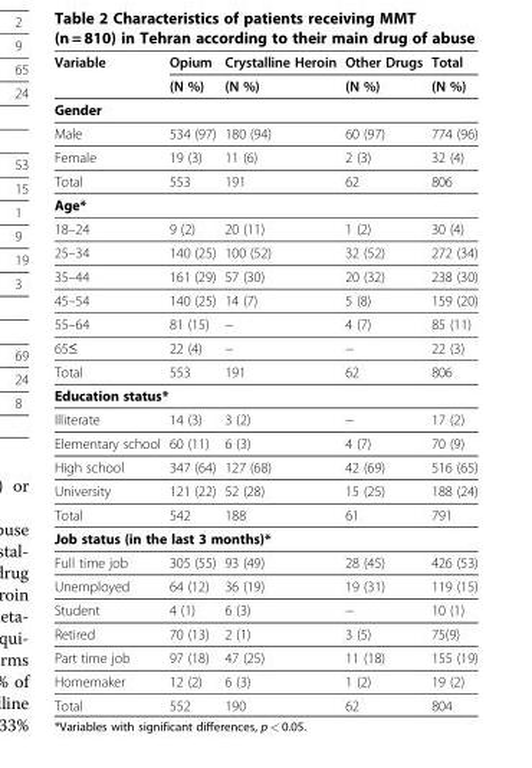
<table><thead><tr><td rowspan="2">Variable</td><td rowspan="2">Opium (N %)</td><td rowspan="2">Crystalline Heroin (N %)</td><td rowspan="2">Other Drugs (N %)</td><td rowspan="2">Total (N %)</td></tr><tr></tr></thead><tbody><tr><td colspan="5">Gender</td></tr><tr><td>Male</td><td>534 (97)</td><td>180 (94)</td><td>60 (97)</td><td>774 (96)</td></tr><tr><td>Female</td><td>19 (3)</td><td>11 (6)</td><td>2 (3)</td><td>32 (4)</td></tr><tr><td>Total</td><td>553</td><td>191</td><td>62</td><td>806</td></tr><tr><td colspan="5">Age*</td></tr><tr><td>18–24</td><td>9 (2)</td><td>20 (11)</td><td>1 (2)</td><td>30 (4)</td></tr><tr><td>25–34</td><td>140 (25)</td><td>100 (52)</td><td>32 (52)</td><td>272 (34)</td></tr><tr><td>35–44</td><td>161 (29)</td><td>57 (30)</td><td>20 (32)</td><td>238 (30)</td></tr><tr><td>45–54</td><td>140 (25)</td><td>14 (7)</td><td>5 (8)</td><td>159 (20)</td></tr><tr><td>55–64</td><td>81 (15)</td><td>−</td><td>4 (7)</td><td>85 (11)</td></tr><tr><td>65≤</td><td>22 (4)</td><td>−</td><td>−</td><td>22 (3)</td></tr><tr><td>Total</td><td>553</td><td>191</td><td>62</td><td>806</td></tr><tr><td colspan="5">Education status*</td></tr><tr><td>Illiterate</td><td>14 (3)</td><td>3 (2)</td><td>−</td><td>17 (2)</td></tr><tr><td>Elementary school</td><td>60 (11)</td><td>6 (3)</td><td>4 (7)</td><td>70 (9)</td></tr><tr><td>High school</td><td>347 (64)</td><td>127 (68)</td><td>42 (69)</td><td>516 (65)</td></tr><tr><td>University</td><td>121 (22)</td><td>52 (28)</td><td>15 (25)</td><td>188 (24)</td></tr><tr><td>Total</td><td>542</td><td>188</td><td>61</td><td>791</td></tr><tr><td colspan="5">Job status (in the last 3 months)*</td></tr><tr><td>Full time job</td><td>305 (55)</td><td>93 (49)</td><td>28 (45)</td><td>426 (53)</td></tr><tr><td>Unemployed</td><td>64 (12)</td><td>36 (19)</td><td>19 (31)</td><td>119 (15)</td></tr><tr><td>Student</td><td>4 (1)</td><td>6 (3)</td><td>−</td><td>10 (1)</td></tr><tr><td>Retired</td><td>70 (13)</td><td>2 (1)</td><td>3 (5)</td><td>75(9)</td></tr><tr><td>Part time job</td><td>97 (18)</td><td>47 (25)</td><td>11 (18)</td><td>155 (19)</td></tr><tr><td>Homemaker</td><td>12 (2)</td><td>6 (3)</td><td>1 (2)</td><td>19 (2)</td></tr><tr><td>Total</td><td>552</td><td>190</td><td>62</td><td>804</td></tr></tbody></table>